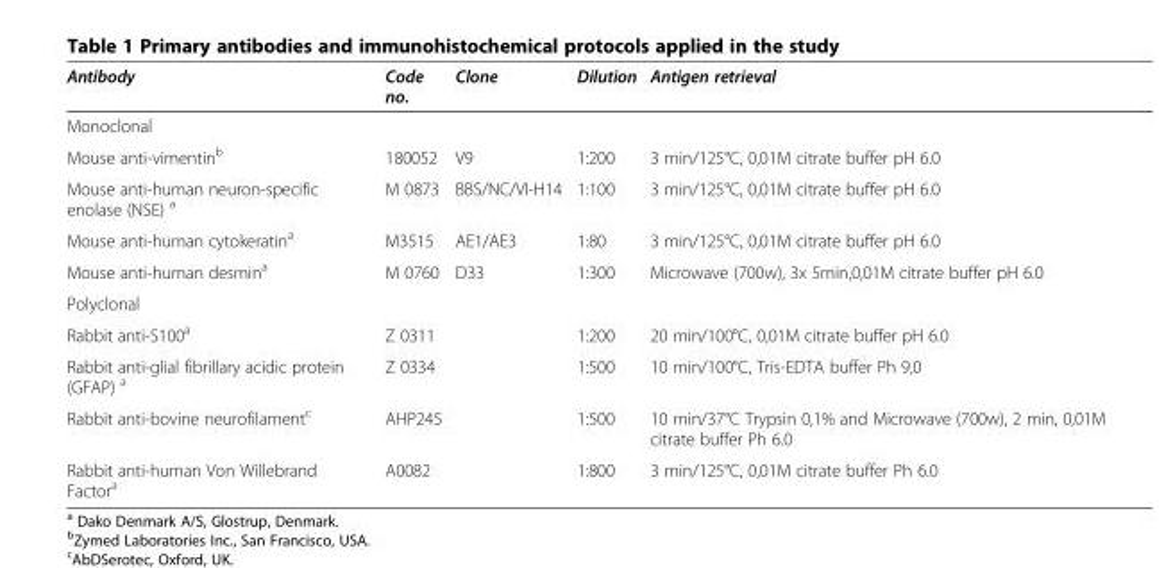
<table><thead><tr><td>Antibody</td><td>Code no.</td><td>Clone</td><td>Dilution</td><td>Antigen retrieval</td></tr></thead><tbody><tr><td colspan="5">Monoclonal</td></tr><tr><td>Mouse anti-vimentin<sup>b</sup></td><td>180052</td><td>V9</td><td>1:200</td><td>3 min/125°C, 0,01M citrate buffer pH 6.0</td></tr><tr><td>Mouse anti-human neuron-specific enolase (NSE) <sup>a</sup></td><td>M 0873</td><td>BBS/NC/VI-H14</td><td>1:100</td><td>3 min/125°C, 0,01M citrate buffer pH 6.0</td></tr><tr><td>Mouse anti-human cytokeratin<sup>a</sup></td><td>M3515</td><td>AE1/AE3</td><td>1:80</td><td>3 min/125°C, 0,01M citrate buffer pH 6.0</td></tr><tr><td>Mouse anti-human desmin<sup>a</sup></td><td>M 0760</td><td>D33</td><td>1:300</td><td>Microwave (700w), 3x 5min,0,01M citrate buffer pH 6.0</td></tr><tr><td colspan="5">Polyclonal</td></tr><tr><td>Rabbit anti-S100<sup>a</sup></td><td>Z 0311</td><td></td><td>1:200</td><td>20 min/100°C, 0,01M citrate buffer pH 6.0</td></tr><tr><td>Rabbit anti-glial fibrillary acidic protein (GFAP) <sup>a</sup></td><td>Z 0334</td><td></td><td>1:500</td><td>10 min/100°C, Tris-EDTA buffer Ph 9,0</td></tr><tr><td>Rabbit anti-bovine neurofilament<sup>c</sup></td><td>AHP245</td><td></td><td>1:500</td><td>10 min/37°C Trypsin 0,1% and Microwave (700w), 2 min, 0,01M citrate buffer Ph 6.0</td></tr><tr><td>Rabbit anti-human Von Willebrand Factor<sup>a</sup></td><td>A0082</td><td></td><td>1:800</td><td>3 min/125°C, 0,01M citrate buffer Ph 6.0</td></tr></tbody></table>